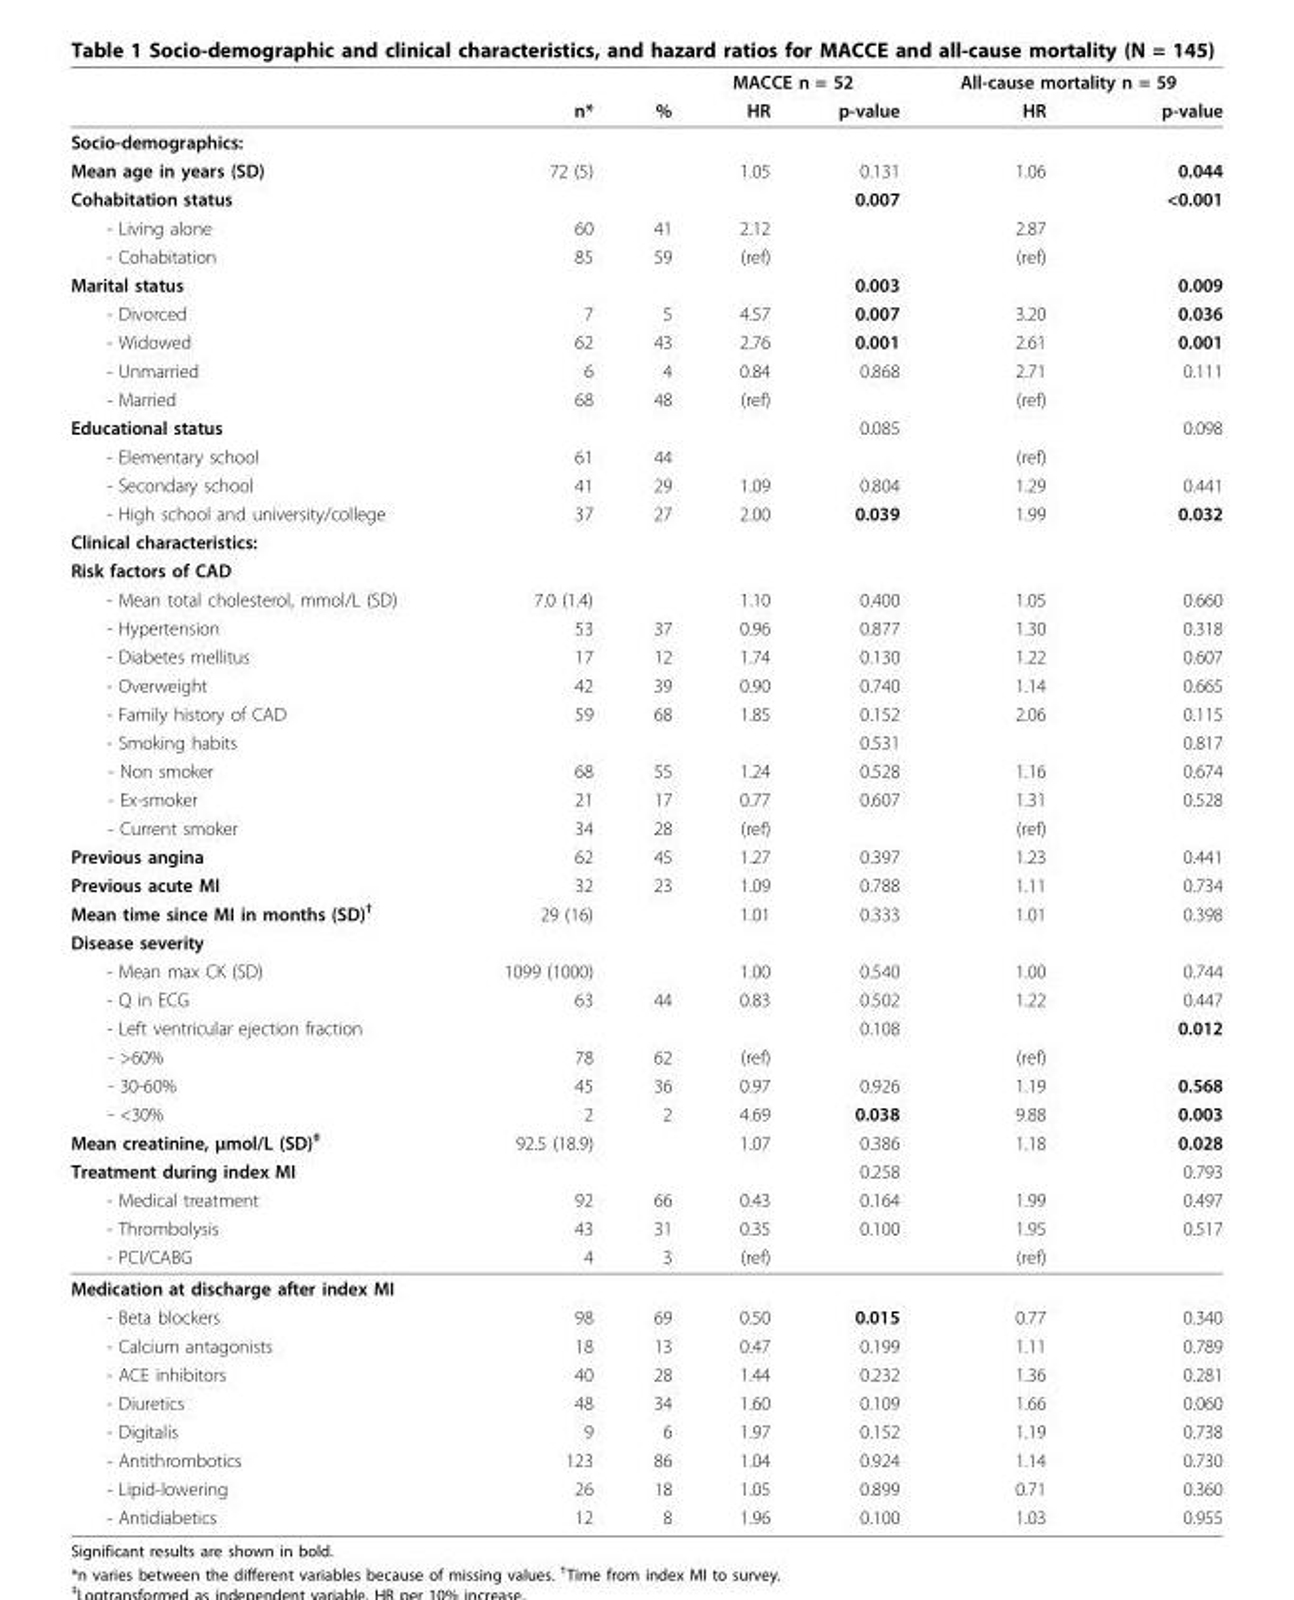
<table><thead><tr><td rowspan="2"></td><td rowspan="2">n*</td><td rowspan="2">%</td><td colspan="2">MACCE n = 52</td><td colspan="2">All-cause mortality n = 59</td></tr><tr><td>HR</td><td>p-value</td><td>HR</td><td>p-value</td></tr></thead><tbody><tr><td colspan="7">Socio-demographics:</td></tr><tr><td>Mean age in years (SD)</td><td>72 (5)</td><td></td><td>1.05</td><td>0.131</td><td>1.06</td><td>0.044</td></tr><tr><td>Cohabitation status</td><td></td><td></td><td></td><td>0.007</td><td></td><td>&lt;0.001</td></tr><tr><td>- Living alone</td><td>60</td><td>41</td><td>2.12</td><td></td><td>2.87</td><td></td></tr><tr><td>- Cohabitation</td><td>85</td><td>59</td><td>(ref)</td><td></td><td>(ref)</td><td></td></tr><tr><td>Marital status</td><td></td><td></td><td></td><td>0.003</td><td></td><td>0.009</td></tr><tr><td>- Divorced</td><td>7</td><td>5</td><td>4.57</td><td>0.007</td><td>3.20</td><td>0.036</td></tr><tr><td>- Widowed</td><td>62</td><td>43</td><td>2.76</td><td>0.001</td><td>2.61</td><td>0.001</td></tr><tr><td>- Unmarried</td><td>6</td><td>4</td><td>0.84</td><td>0.868</td><td>2.71</td><td>0.111</td></tr><tr><td>- Married</td><td>68</td><td>48</td><td>(ref)</td><td></td><td>(ref)</td><td></td></tr><tr><td>Educational status</td><td></td><td></td><td></td><td>0.085</td><td></td><td>0.098</td></tr><tr><td>- Elementary school</td><td>61</td><td>44</td><td></td><td></td><td>(ref)</td><td></td></tr><tr><td>- Secondary school</td><td>41</td><td>29</td><td>1.09</td><td>0.804</td><td>1.29</td><td>0.441</td></tr><tr><td>- High school and university/college</td><td>37</td><td>27</td><td>2.00</td><td>0.039</td><td>1.99</td><td>0.032</td></tr><tr><td colspan="7">Clinical characteristics:</td></tr><tr><td colspan="7">Risk factors of CAD</td></tr><tr><td>- Mean total cholesterol, mmol/L (SD)</td><td>7.0 (1.4)</td><td></td><td>1.10</td><td>0.400</td><td>1.05</td><td>0.660</td></tr><tr><td>- Hypertension</td><td>53</td><td>37</td><td>0.96</td><td>0.877</td><td>1.30</td><td>0.318</td></tr><tr><td>- Diabetes mellitus</td><td>17</td><td>12</td><td>1.74</td><td>0.130</td><td>1.22</td><td>0.607</td></tr><tr><td>- Overweight</td><td>42</td><td>39</td><td>0.90</td><td>0.740</td><td>1.14</td><td>0.665</td></tr><tr><td>- Family history of CAD</td><td>59</td><td>68</td><td>1.85</td><td>0.152</td><td>2.06</td><td>0.115</td></tr><tr><td>- Smoking habits</td><td></td><td></td><td></td><td>0.531</td><td></td><td>0.817</td></tr><tr><td>- Non smoker</td><td>68</td><td>55</td><td>1.24</td><td>0.528</td><td>1.16</td><td>0.674</td></tr><tr><td>- Ex-smoker</td><td>21</td><td>17</td><td>0.77</td><td>0.607</td><td>1.31</td><td>0.528</td></tr><tr><td>- Current smoker</td><td>34</td><td>28</td><td>(ref)</td><td></td><td>(ref)</td><td></td></tr><tr><td>Previous angina</td><td>62</td><td>45</td><td>1.27</td><td>0.397</td><td>1.23</td><td>0.441</td></tr><tr><td>Previous acute MI</td><td>32</td><td>23</td><td>1.09</td><td>0.788</td><td>1.11</td><td>0.734</td></tr><tr><td>Mean time since MI in months (SD)<sup>†</sup></td><td>29 (16)</td><td></td><td>1.01</td><td>0.333</td><td>1.01</td><td>0.398</td></tr><tr><td colspan="7">Disease severity</td></tr><tr><td>- Mean max CK (SD)</td><td>1099 (1000)</td><td></td><td>1.00</td><td>0.540</td><td>1.00</td><td>0.744</td></tr><tr><td>- Q in ECG</td><td>63</td><td>44</td><td>0.83</td><td>0.502</td><td>1.22</td><td>0.447</td></tr><tr><td>- Left ventricular ejection fraction</td><td></td><td></td><td></td><td>0.108</td><td></td><td>0.012</td></tr><tr><td>- &gt;60%</td><td>78</td><td>62</td><td>(ref)</td><td></td><td>(ref)</td><td></td></tr><tr><td>- 30-60%</td><td>45</td><td>36</td><td>0.97</td><td>0.926</td><td>1.19</td><td>0.568</td></tr><tr><td>- &lt;30%</td><td>2</td><td>2</td><td>4.69</td><td>0.038</td><td>9.88</td><td>0.003</td></tr><tr><td>Mean creatinine, μmol/L (SD)<sup>‡</sup></td><td>92.5 (18.9)</td><td></td><td>1.07</td><td>0.386</td><td>1.18</td><td>0.028</td></tr><tr><td>Treatment during index MI</td><td></td><td></td><td></td><td>0.258</td><td></td><td>0.793</td></tr><tr><td>- Medical treatment</td><td>92</td><td>66</td><td>0.43</td><td>0.164</td><td>1.99</td><td>0.497</td></tr><tr><td>- Thrombolysis</td><td>43</td><td>31</td><td>0.35</td><td>0.100</td><td>1.95</td><td>0.517</td></tr><tr><td>- PCI/CABG</td><td>4</td><td>3</td><td>(ref)</td><td></td><td>(ref)</td><td></td></tr><tr><td colspan="7">Medication at discharge after index MI</td></tr><tr><td>- Beta blockers</td><td>98</td><td>69</td><td>0.50</td><td>0.015</td><td>0.77</td><td>0.340</td></tr><tr><td>- Calcium antagonists</td><td>18</td><td>13</td><td>0.47</td><td>0.199</td><td>1.11</td><td>0.789</td></tr><tr><td>- ACE inhibitors</td><td>40</td><td>28</td><td>1.44</td><td>0.232</td><td>1.36</td><td>0.281</td></tr><tr><td>- Diuretics</td><td>48</td><td>34</td><td>1.60</td><td>0.109</td><td>1.66</td><td>0.060</td></tr><tr><td>- Digitalis</td><td>9</td><td>6</td><td>1.97</td><td>0.152</td><td>1.19</td><td>0.738</td></tr><tr><td>- Antithrombotics</td><td>123</td><td>86</td><td>1.04</td><td>0.924</td><td>1.14</td><td>0.730</td></tr><tr><td>- Lipid-lowering</td><td>26</td><td>18</td><td>1.05</td><td>0.899</td><td>0.71</td><td>0.360</td></tr><tr><td>- Antidiabetics</td><td>12</td><td>8</td><td>1.96</td><td>0.100</td><td>1.03</td><td>0.955</td></tr></tbody></table>